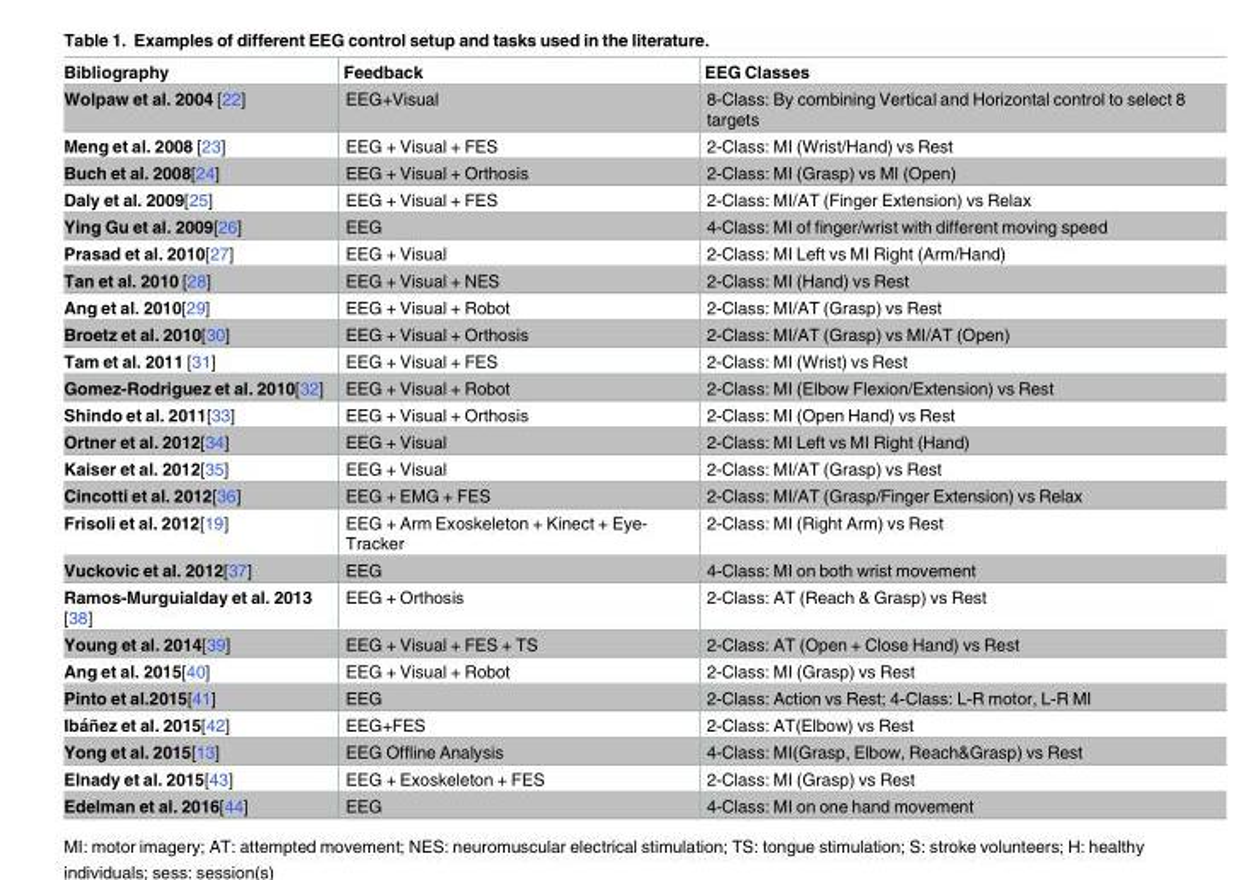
<table><thead><tr><td>Bibliography</td><td>Feedback</td><td>EEG Classes</td></tr></thead><tbody><tr><td>Wolpaw et al. 2004 [22]</td><td>EEG+Visual</td><td>8-Class: By combining Vertical and Horizontal control to select 8 targets</td></tr><tr><td>Meng et al. 2008 [23]</td><td>EEG + Visual + FES</td><td>2-Class: MI (Wrist/Hand) vs Rest</td></tr><tr><td>Buch et al. 2008[24]</td><td>EEG + Visual + Orthosis</td><td>2-Class: MI (Grasp) vs MI (Open)</td></tr><tr><td>Daly et al. 2009[25]</td><td>EEG + Visual + FES</td><td>2-Class: MI/AT (Finger Extension) vs Relax</td></tr><tr><td>Ying Gu et al. 2009[26]</td><td>EEG</td><td>4-Class: MI of finger/wrist with different moving speed</td></tr><tr><td>Prasad et al. 2010[27]</td><td>EEG + Visual</td><td>2-Class: MI Left vs MI Right (Arm/Hand)</td></tr><tr><td>Tan et al. 2010 [28]</td><td>EEG + Visual + NES</td><td>2-Class: MI (Hand) vs Rest</td></tr><tr><td>Ang et al. 2010[29]</td><td>EEG + Visual + Robot</td><td>2-Class: MI/AT (Grasp) vs Rest</td></tr><tr><td>Broetz et al. 2010[30]</td><td>EEG + Visual + Orthosis</td><td>2-Class: MI/AT (Grasp) vs MI/AT (Open)</td></tr><tr><td>Tam et al. 2011 [31]</td><td>EEG + Visual + FES</td><td>2-Class: MI (Wrist) vs Rest</td></tr><tr><td>Gomez-Rodriguez et al. 2010[32]</td><td>EEG + Visual + Robot</td><td>2-Class: MI (Elbow Flexion/Extension) vs Rest</td></tr><tr><td>Shindo et al. 2011[33]</td><td>EEG + Visual + Orthosis</td><td>2-Class: MI (Open Hand) vs Rest</td></tr><tr><td>Ortner et al. 2012[34]</td><td>EEG + Visual</td><td>2-Class: MI Left vs MI Right (Hand)</td></tr><tr><td>Kaiser et al. 2012[35]</td><td>EEG + Visual</td><td>2-Class: MI/AT (Grasp) vs Rest</td></tr><tr><td>Cincotti et al. 2012[36]</td><td>EEG + EMG + FES</td><td>2-Class: MI/AT (Grasp/Finger Extension) vs Relax</td></tr><tr><td>Frisoli et al. 2012[19]</td><td>EEG + Arm Exoskeleton + Kinect + Eye- Tracker</td><td>2-Class: MI (Right Arm) vs Rest</td></tr><tr><td>Vuckovic et al. 2012[37]</td><td>EEG</td><td>4-Class: MI on both wrist movement</td></tr><tr><td>Ramos-Murguialday et al. 2013 [38]</td><td>EEG + Orthosis</td><td>2-Class: AT (Reach &amp; Grasp) vs Rest</td></tr><tr><td>Young et al. 2014[39]</td><td>EEG + Visual + FES + TS</td><td>2-Class: AT (Open + Close Hand) vs Rest</td></tr><tr><td>Ang et al. 2015[40]</td><td>EEG + Visual + Robot</td><td>2-Class: MI (Grasp) vs Rest</td></tr><tr><td>Pinto et al.2015[41]</td><td>EEG</td><td>2-Class: Action vs Rest; 4-Class: L-R motor, L-R MI</td></tr><tr><td>Iba´ñez et al. 2015[42]</td><td>EEG+FES</td><td>2-Class: AT(Elbow) vs Rest</td></tr><tr><td>Yong et al. 2015[13]</td><td>EEG Offline Analysis</td><td>4-Class: MI(Grasp, Elbow, Reach&amp;Grasp) vs Rest</td></tr><tr><td>Elnady et al. 2015[43]</td><td>EEG + Exoskeleton + FES</td><td>2-Class: MI (Grasp) vs Rest</td></tr><tr><td>Edelman et al. 2016[44]</td><td>EEG</td><td>4-Class: MI on one hand movement</td></tr></tbody></table>